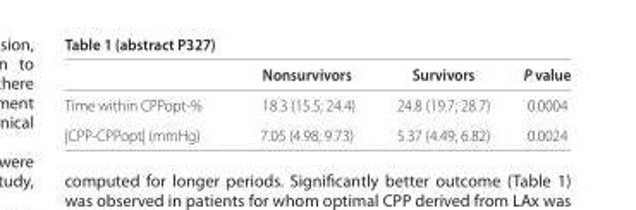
<table><thead><tr><td></td><td>Nonsurvivors</td><td>Survivors</td><td>P value</td></tr></thead><tbody><tr><td>Time within CPPopt-%</td><td>18.3 (15.5; 24.4)</td><td>24.8 (19.7; 28.7)</td><td>0.0004</td></tr><tr><td>|CPP-CPPopt| (mmHg)</td><td>7.05 (4.98; 9.73)</td><td>5.37 (4.49; 6.82)</td><td>0.0024</td></tr></tbody></table>